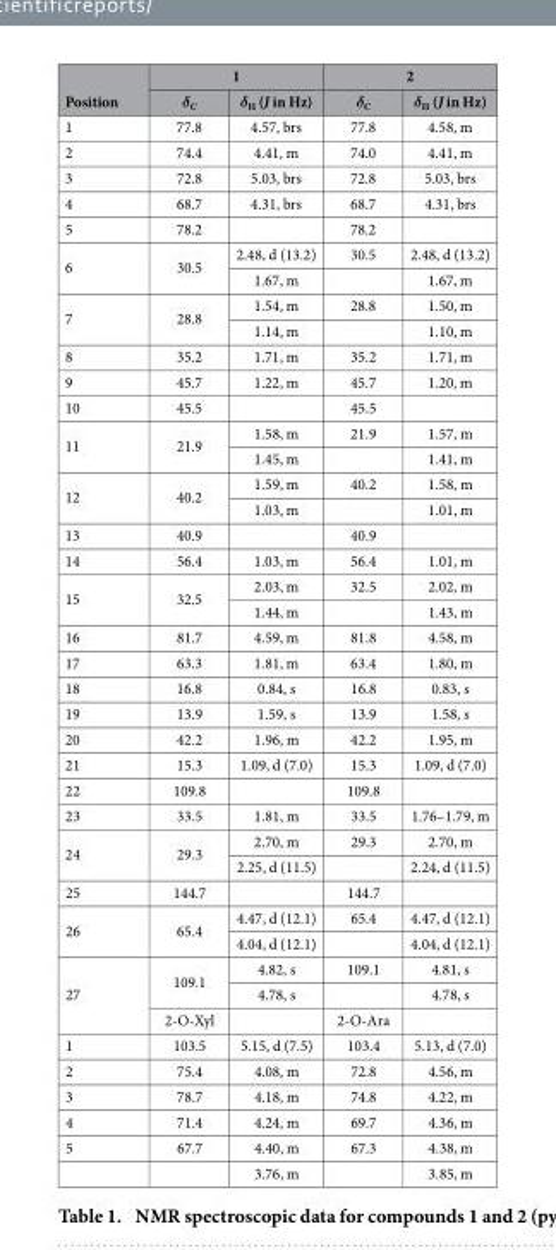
<table><thead><tr><td rowspan="2">Position</td><td colspan="2">1</td><td colspan="2">2</td></tr><tr><td>δ<sub>C</sub></td><td>δ<sub>H</sub> (J in Hz)</td><td>δ<sub>C</sub></td><td>δ<sub>H</sub> (J in Hz)</td></tr></thead><tbody><tr><td>1</td><td>77.8</td><td>4.57, brs</td><td>77.8</td><td>4.58, m</td></tr><tr><td>2</td><td>74.4</td><td>4.41, m</td><td>74.0</td><td>4.41, m</td></tr><tr><td>3</td><td>72.8</td><td>5.03, brs</td><td>72.8</td><td>5.03, brs</td></tr><tr><td>4</td><td>68.7</td><td>4.31, brs</td><td>68.7</td><td>4.31, brs</td></tr><tr><td>5</td><td>78.2</td><td></td><td>78.2</td><td></td></tr><tr><td rowspan="2">6</td><td rowspan="2">30.5</td><td>2.48, d (13.2)</td><td>30.5</td><td>2.48, d (13.2)</td></tr><tr><td>1.67, m</td><td></td><td>1.67, m</td></tr><tr><td rowspan="2">7</td><td rowspan="2">28.8</td><td>1.54, m</td><td>28.8</td><td>1.50, m</td></tr><tr><td>1.14, m</td><td></td><td>1.10, m</td></tr><tr><td>8</td><td>35.2</td><td>1.71, m</td><td>35.2</td><td>1.71, m</td></tr><tr><td>9</td><td>45.7</td><td>1.22, m</td><td>45.7</td><td>1.20, m</td></tr><tr><td>10</td><td>45.5</td><td></td><td>45.5</td><td></td></tr><tr><td rowspan="2">11</td><td rowspan="2">21.9</td><td>1.58, m</td><td>21.9</td><td>1.57, m</td></tr><tr><td>1.45, m</td><td></td><td>1.41, m</td></tr><tr><td rowspan="2">12</td><td rowspan="2">40.2</td><td>1.59, m</td><td>40.2</td><td>1.58, m</td></tr><tr><td>1.03, m</td><td></td><td>1.01, m</td></tr><tr><td>13</td><td>40.9</td><td></td><td>40.9</td><td></td></tr><tr><td>14</td><td>56.4</td><td>1.03, m</td><td>56.4</td><td>1.01, m</td></tr><tr><td rowspan="2">15</td><td rowspan="2">32.5</td><td>2.03, m</td><td>32.5</td><td>2.02, m</td></tr><tr><td>1.44, m</td><td></td><td>1.43, m</td></tr><tr><td>16</td><td>81.7</td><td>4.59, m</td><td>81.8</td><td>4.58, m</td></tr><tr><td>17</td><td>63.3</td><td>1.81, m</td><td>63.4</td><td>1.80, m</td></tr><tr><td>18</td><td>16.8</td><td>0.84, s</td><td>16.8</td><td>0.83, s</td></tr><tr><td>19</td><td>13.9</td><td>1.59, s</td><td>13.9</td><td>1.58, s</td></tr><tr><td>20</td><td>42.2</td><td>1.96, m</td><td>42.2</td><td>1.95, m</td></tr><tr><td>21</td><td>15.3</td><td>1.09, d (7.0)</td><td>15.3</td><td>1.09, d (7.0)</td></tr><tr><td>22</td><td>109.8</td><td></td><td>109.8</td><td></td></tr><tr><td>23</td><td>33.5</td><td>1.81, m</td><td>33.5</td><td>1.76–1.79, m</td></tr><tr><td rowspan="2">24</td><td rowspan="2">29.3</td><td>2.70, m</td><td>29.3</td><td>2.70, m</td></tr><tr><td>2.25, d (11.5)</td><td></td><td>2.24, d (11.5)</td></tr><tr><td>25</td><td>144.7</td><td></td><td>144.7</td><td></td></tr><tr><td rowspan="2">26</td><td rowspan="2">65.4</td><td>4.47, d (12.1)</td><td>65.4</td><td>4.47, d (12.1)</td></tr><tr><td>4.04, d (12.1)</td><td></td><td>4.04, d (12.1)</td></tr><tr><td rowspan="3">27</td><td rowspan="2">109.1</td><td>4.82, s</td><td>109.1</td><td>4.81, s</td></tr><tr><td>4.78, s</td><td></td><td>4.78, s</td></tr><tr><td>2-O-Xyl</td><td></td><td>2-O-Ara</td><td></td></tr><tr><td>1</td><td>103.5</td><td>5.15, d (7.5)</td><td>103.4</td><td>5.13, d (7.0)</td></tr><tr><td>2</td><td>75.4</td><td>4.08, m</td><td>72.8</td><td>4.56, m</td></tr><tr><td>3</td><td>78.7</td><td>4.18, m</td><td>74.8</td><td>4.22, m</td></tr><tr><td>4</td><td>71.4</td><td>4.24, m</td><td>69.7</td><td>4.36, m</td></tr><tr><td rowspan="2">5</td><td>67.7</td><td>4.40, m</td><td>67.3</td><td>4.38, m</td></tr><tr><td></td><td>3.76, m</td><td></td><td>3.85, m</td></tr></tbody></table>